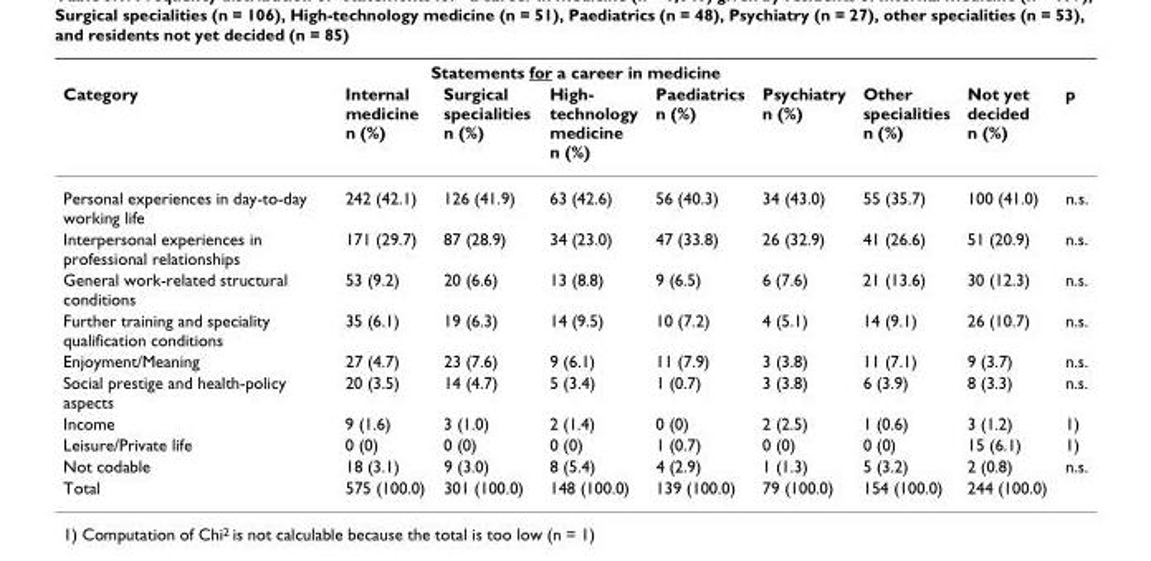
<table><thead><tr><td colspan="9">Statements for a career in medicine</td></tr><tr><td>Category</td><td>Internal medicine n (%)</td><td>Surgical specialities n (%)</td><td>High- technology medicine n (%)</td><td>Paediatrics n (%)</td><td>Psychiatry n (%)</td><td>Other specialities n (%)</td><td>Not yet decided n (%)</td><td>p</td></tr></thead><tbody><tr><td>Personal experiences in day-to-day working life</td><td>242 (42.1)</td><td>126 (41.9)</td><td>63 (42.6)</td><td>56 (40.3)</td><td>34 (43.0)</td><td>55 (35.7)</td><td>100 (41.0)</td><td>n.s.</td></tr><tr><td>Interpersonal experiences in professional relationships</td><td>171 (29.7)</td><td>87 (28.9)</td><td>34 (23.0)</td><td>47 (33.8)</td><td>26 (32.9)</td><td>41 (26.6)</td><td>51 (20.9)</td><td>n.s.</td></tr><tr><td>General work-related structural conditions</td><td>53 (9.2)</td><td>20 (6.6)</td><td>13 (8.8)</td><td>9 (6.5)</td><td>6 (7.6)</td><td>21 (13.6)</td><td>30 (12.3)</td><td>n.s.</td></tr><tr><td>Further training and speciality qualification conditions</td><td>35 (6.1)</td><td>19 (6.3)</td><td>14 (9.5)</td><td>10 (7.2)</td><td>4 (5.1)</td><td>14 (9.1)</td><td>26 (10.7)</td><td>n.s.</td></tr><tr><td>Enjoyment/Meaning</td><td>27 (4.7)</td><td>23 (7.6)</td><td>9 (6.1)</td><td>11 (7.9)</td><td>3 (3.8)</td><td>11 (7.1)</td><td>9 (3.7)</td><td>n.s.</td></tr><tr><td>Social prestige and health-policy aspects</td><td>20 (3.5)</td><td>14 (4.7)</td><td>5 (3.4)</td><td>1 (0.7)</td><td>3 (3.8)</td><td>6 (3.9)</td><td>8 (3.3)</td><td>n.s.</td></tr><tr><td>Income</td><td>9 (1.6)</td><td>3 (1.0)</td><td>2 (1.4)</td><td>0 (0)</td><td>2 (2.5)</td><td>1 (0.6)</td><td>3 (1.2)</td><td>1)</td></tr><tr><td>Leisure/Private life</td><td>0 (0)</td><td>0 (0)</td><td>0 (0)</td><td>1 (0.7)</td><td>0 (0)</td><td>0 (0)</td><td>15 (6.1)</td><td>1)</td></tr><tr><td>Not codable</td><td>18 (3.1)</td><td>9 (3.0)</td><td>8 (5.4)</td><td>4 (2.9)</td><td>1 (1.3)</td><td>5 (3.2)</td><td>2 (0.8)</td><td>n.s.</td></tr><tr><td>Total</td><td>575 (100.0)</td><td>301 (100.0)</td><td>148 (100.0)</td><td>139 (100.0)</td><td>79 (100.0)</td><td>154 (100.0)</td><td>244 (100.0)</td><td></td></tr></tbody></table>